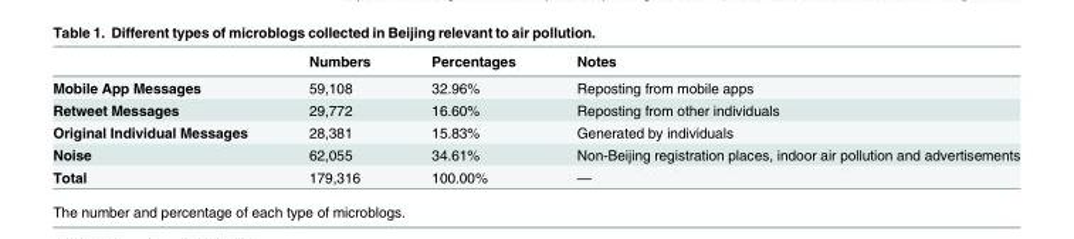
<table><thead><tr><td></td><td>Numbers</td><td>Percentages</td><td>Notes</td></tr></thead><tbody><tr><td>Mobile App Messages</td><td>59,108</td><td>32.96%</td><td>Reposting from mobile apps</td></tr><tr><td>Retweet Messages</td><td>29,772</td><td>16.60%</td><td>Reposting from other individuals</td></tr><tr><td>Original Individual Messages</td><td>28,381</td><td>15.83%</td><td>Generated by individuals</td></tr><tr><td>Noise</td><td>62,055</td><td>34.61%</td><td>Non-Beijing registration places, indoor air pollution and advertisements</td></tr><tr><td>Total</td><td>179,316</td><td>100.00%</td><td>—</td></tr></tbody></table>